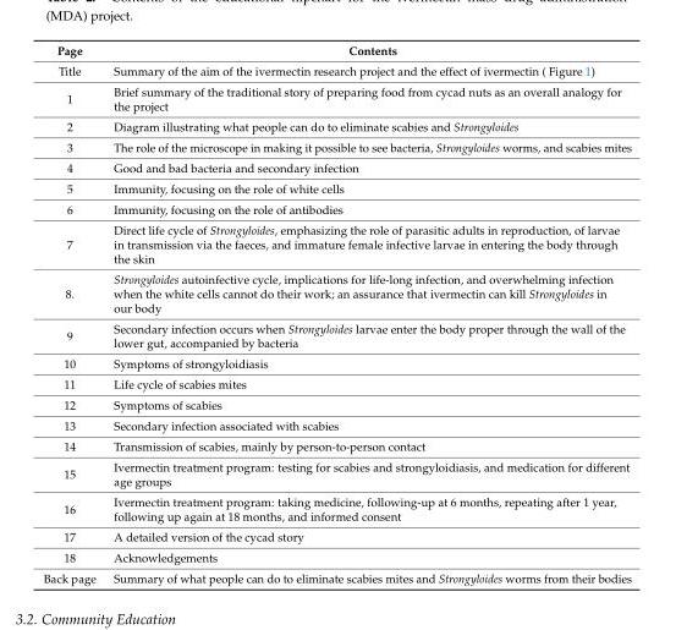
<table><thead><tr><td>Page</td><td>Contents</td></tr></thead><tbody><tr><td>Title</td><td>Summary of the aim of the ivermectin research project and the effect of ivermectin ( Figure 1)</td></tr><tr><td>1</td><td>Brief summary of the traditional story of preparing food from cycad nuts as an overall analogy for the project</td></tr><tr><td>2</td><td>Diagram illustrating what people can do to eliminate scabies and Strongyloides</td></tr><tr><td>3</td><td>The role of the microscope in making it possible to see bacteria, Strongyloides worms, and scabies mites</td></tr><tr><td>4</td><td>Good and bad bacteria and secondary infection</td></tr><tr><td>5</td><td>Immunity, focusing on the role of white cells</td></tr><tr><td>6</td><td>Immunity, focusing on the role of antibodies</td></tr><tr><td>7</td><td>Direct life cycle of Strongyloides, emphasizing the role of parasitic adults in reproduction, of larvae in transmission via the faeces, and immature female infective larvae in entering the body through the skin</td></tr><tr><td>8.</td><td>Strongyloides autoinfective cycle, implications for life-long infection, and overwhelming infection when the white cells cannot do their work; an assurance that ivermectin can kill Strongyloides in our body</td></tr><tr><td>9</td><td>Secondary infection occurs when Strongyloides larvae enter the body proper through the wall of the lower gut, accompanied by bacteria</td></tr><tr><td>10</td><td>Symptoms of strongyloidiasis</td></tr><tr><td>11</td><td>Life cycle of scabies mites</td></tr><tr><td>12</td><td>Symptoms of scabies</td></tr><tr><td>13</td><td>Secondary infection associated with scabies</td></tr><tr><td>14</td><td>Transmission of scabies, mainly by person-to-person contact</td></tr><tr><td>15</td><td>Ivermectin treatment program: testing for scabies and strongyloidiasis, and medication for different age groups</td></tr><tr><td>16</td><td>Ivermectin treatment program: taking medicine, following-up at 6 months, repeating after 1 year, following up again at 18 months, and informed consent</td></tr><tr><td>17</td><td>A detailed version of the cycad story</td></tr><tr><td>18</td><td>Acknowledgements</td></tr><tr><td>Back page</td><td>Summary of what people can do to eliminate scabies mites and Strongyloides worms from their bodies</td></tr></tbody></table>